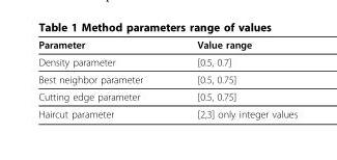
<table><thead><tr><td>Parameter</td><td>Value range</td></tr></thead><tbody><tr><td>Density parameter</td><td>[0.5, 0.7]</td></tr><tr><td>Best neighbor parameter</td><td>[0.5, 0.75]</td></tr><tr><td>Cutting edge parameter</td><td>[0.5, 0.75]</td></tr><tr><td>Haircut parameter</td><td>[2,3] only integer values</td></tr></tbody></table>